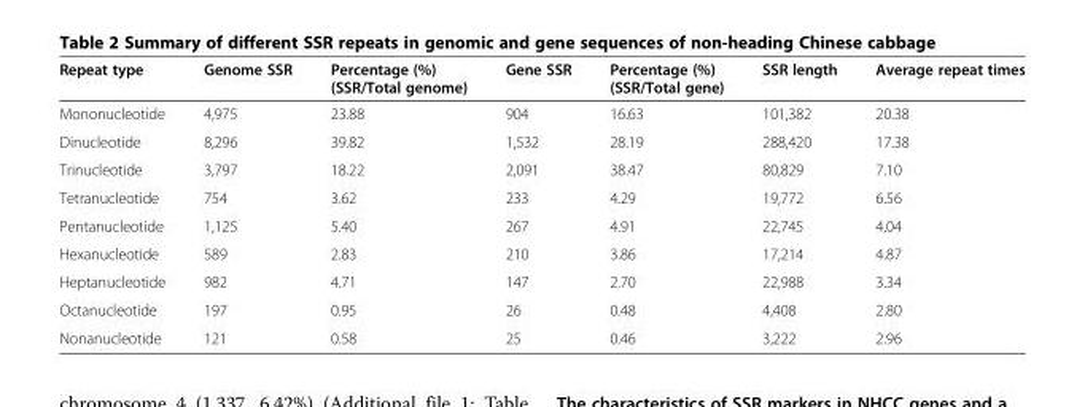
<table><thead><tr><td>Repeat type</td><td>Genome SSR</td><td>Percentage (%) (SSR/Total genome)</td><td>Gene SSR</td><td>Percentage (%) (SSR/Total gene)</td><td>SSR length</td><td>Average repeat times</td></tr></thead><tbody><tr><td>Mononucleotide</td><td>4,975</td><td>23.88</td><td>904</td><td>16.63</td><td>101,382</td><td>20.38</td></tr><tr><td>Dinucleotide</td><td>8,296</td><td>39.82</td><td>1,532</td><td>28.19</td><td>288,420</td><td>17.38</td></tr><tr><td>Trinucleotide</td><td>3,797</td><td>18.22</td><td>2,091</td><td>38.47</td><td>80,829</td><td>7.10</td></tr><tr><td>Tetranucleotide</td><td>754</td><td>3.62</td><td>233</td><td>4.29</td><td>19,772</td><td>6.56</td></tr><tr><td>Pentanucleotide</td><td>1,125</td><td>5.40</td><td>267</td><td>4.91</td><td>22,745</td><td>4.04</td></tr><tr><td>Hexanucleotide</td><td>589</td><td>2.83</td><td>210</td><td>3.86</td><td>17,214</td><td>4.87</td></tr><tr><td>Heptanucleotide</td><td>982</td><td>4.71</td><td>147</td><td>2.70</td><td>22,988</td><td>3.34</td></tr><tr><td>Octanucleotide</td><td>197</td><td>0.95</td><td>26</td><td>0.48</td><td>4,408</td><td>2.80</td></tr><tr><td>Nonanucleotide</td><td>121</td><td>0.58</td><td>25</td><td>0.46</td><td>3,222</td><td>2.96</td></tr></tbody></table>